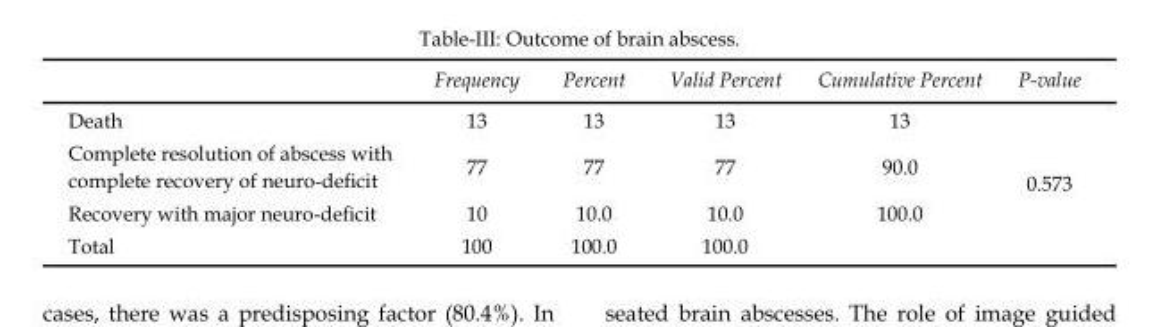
<table><thead><tr><td></td><td>Frequency</td><td>Percent</td><td>Valid Percent</td><td>Cumulative Percent</td><td>P-value</td></tr></thead><tbody><tr><td>Death</td><td>13</td><td>13</td><td>13</td><td>13</td><td rowspan="4">0.573</td></tr><tr><td>Complete resolution of abscess with complete recovery of neuro-deficit</td><td>77</td><td>77</td><td>77</td><td>90.0</td></tr><tr><td>Recovery with major neuro-deficit</td><td>10</td><td>10.0</td><td>10.0</td><td>100.0</td></tr><tr><td>Total</td><td>100</td><td>100.0</td><td>100.0</td><td></td></tr></tbody></table>